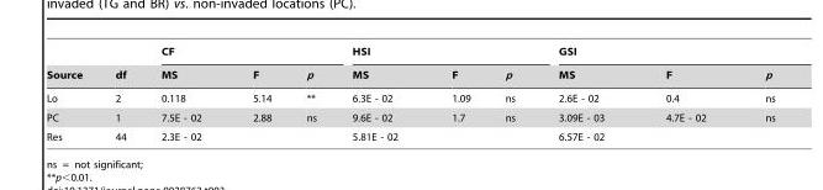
<table><thead><tr><td rowspan="2">Source</td><td rowspan="2">df</td><td colspan="3">CF</td><td colspan="3">HSI</td><td colspan="3">GSI</td></tr><tr><td>MS</td><td>F</td><td>p</td><td>MS</td><td>F</td><td>p</td><td>MS</td><td>F</td><td>p</td></tr></thead><tbody><tr><td>Lo</td><td>2</td><td>0.118</td><td>5.14</td><td>**</td><td>6.3E - 02</td><td>1.09</td><td>ns</td><td>2.6E - 02</td><td>0.4</td><td>ns</td></tr><tr><td>PC</td><td>1</td><td>7.5E - 02</td><td>2.88</td><td>ns</td><td>9.6E - 02</td><td>1.7</td><td>ns</td><td>3.09E - 03</td><td>4.7E - 02</td><td>ns</td></tr><tr><td>Res</td><td>44</td><td>2.3E - 02</td><td></td><td></td><td>5.81E - 02</td><td></td><td></td><td>6.57E - 02</td><td></td><td></td></tr></tbody></table>